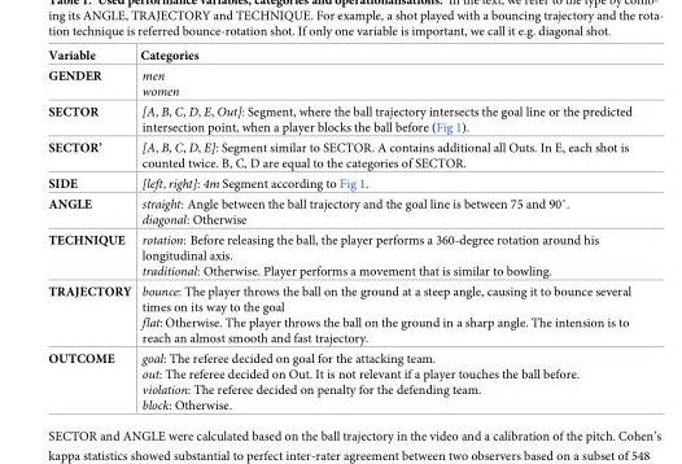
<table><thead><tr><td>Variable</td><td>Categories</td></tr></thead><tbody><tr><td>GENDER</td><td>men women</td></tr><tr><td>SECTOR</td><td>[A, B, C, D, E, Out]: Segment, where the ball trajectory intersects the goal line or the predicted intersection point, when a player blocks the ball before (Fig 1).</td></tr><tr><td>SECTOR’</td><td>[A, B, C, D, E]: Segment similar to SECTOR. A contains additional all Outs. In E, each shot is counted twice. B, C, D are equal to the categories of SECTOR.</td></tr><tr><td>SIDE</td><td>[left, right]: 4m Segment according to Fig 1.</td></tr><tr><td>ANGLE</td><td>straight: Angle between the ball trajectory and the goal line is between 75 and 90˚. diagonal: Otherwise</td></tr><tr><td>TECHNIQUE</td><td>rotation: Before releasing the ball, the player performs a 360-degree rotation around his longitudinal axis. traditional: Otherwise. Player performs a movement that is similar to bowling.</td></tr><tr><td>TRAJECTORY</td><td>bounce: The player throws the ball on the ground at a steep angle, causing it to bounce several times on its way to the goal flat: Otherwise. The player throws the ball on the ground in a sharp angle. The intension is to reach an almost smooth and fast trajectory.</td></tr><tr><td>OUTCOME</td><td>goal: The referee decided on goal for the attacking team. out: The referee decided on Out. It is not relevant if a player touches the ball before. violation: The referee decided on penalty for the defending team. block: Otherwise.</td></tr></tbody></table>